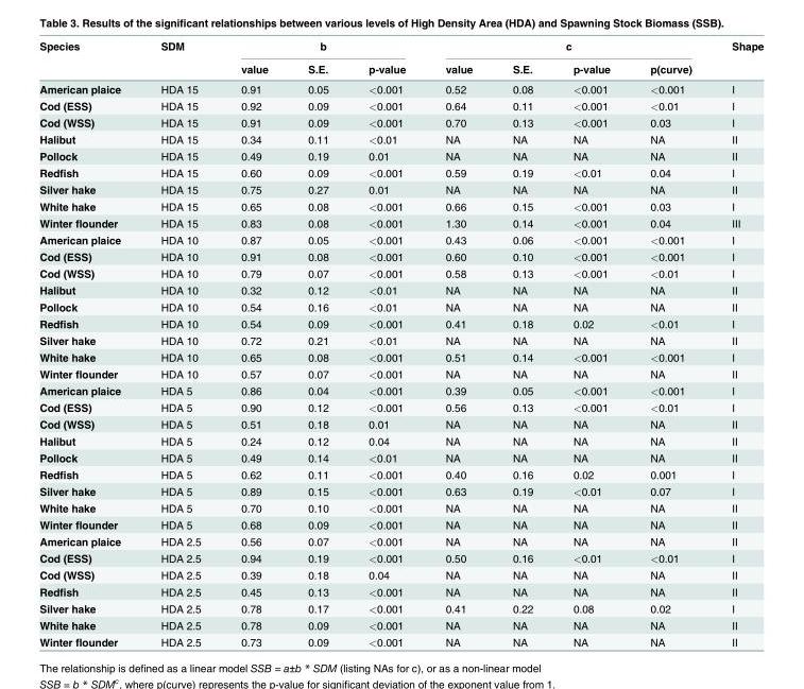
<table><thead><tr><td rowspan="2">Species</td><td rowspan="2">SDM</td><td colspan="3">b</td><td colspan="4">c</td><td rowspan="2">Shape</td></tr><tr><td>value</td><td>S.E.</td><td>p-value</td><td>value</td><td>S.E.</td><td>p-value</td><td>p(curve)</td></tr></thead><tbody><tr><td>American plaice</td><td>HDA 15</td><td>0.91</td><td>0.05</td><td>&lt;0.001</td><td>0.52</td><td>0.08</td><td>&lt;0.001</td><td>&lt;0.001</td><td>I</td></tr><tr><td>Cod (ESS)</td><td>HDA 15</td><td>0.92</td><td>0.09</td><td>&lt;0.001</td><td>0.64</td><td>0.11</td><td>&lt;0.001</td><td>&lt;0.01</td><td>I</td></tr><tr><td>Cod (WSS)</td><td>HDA 15</td><td>0.91</td><td>0.09</td><td>&lt;0.001</td><td>0.70</td><td>0.13</td><td>&lt;0.001</td><td>0.03</td><td>I</td></tr><tr><td>Halibut</td><td>HDA 15</td><td>0.34</td><td>0.11</td><td>&lt;0.01</td><td>NA</td><td>NA</td><td>NA</td><td>NA</td><td>II</td></tr><tr><td>Pollock</td><td>HDA 15</td><td>0.49</td><td>0.19</td><td>0.01</td><td>NA</td><td>NA</td><td>NA</td><td>NA</td><td>II</td></tr><tr><td>Redfish</td><td>HDA 15</td><td>0.60</td><td>0.09</td><td>&lt;0.001</td><td>0.59</td><td>0.19</td><td>&lt;0.01</td><td>0.04</td><td>I</td></tr><tr><td>Silver hake</td><td>HDA 15</td><td>0.75</td><td>0.27</td><td>0.01</td><td>NA</td><td>NA</td><td>NA</td><td>NA</td><td>II</td></tr><tr><td>White hake</td><td>HDA 15</td><td>0.65</td><td>0.08</td><td>&lt;0.001</td><td>0.66</td><td>0.15</td><td>&lt;0.001</td><td>0.03</td><td>I</td></tr><tr><td>Winter flounder</td><td>HDA 15</td><td>0.83</td><td>0.08</td><td>&lt;0.001</td><td>1.30</td><td>0.14</td><td>&lt;0.001</td><td>0.04</td><td>III</td></tr><tr><td>American plaice</td><td>HDA 10</td><td>0.87</td><td>0.05</td><td>&lt;0.001</td><td>0.43</td><td>0.06</td><td>&lt;0.001</td><td>&lt;0.001</td><td>I</td></tr><tr><td>Cod (ESS)</td><td>HDA 10</td><td>0.91</td><td>0.08</td><td>&lt;0.001</td><td>0.60</td><td>0.10</td><td>&lt;0.001</td><td>&lt;0.001</td><td>I</td></tr><tr><td>Cod (WSS)</td><td>HDA 10</td><td>0.79</td><td>0.07</td><td>&lt;0.001</td><td>0.58</td><td>0.13</td><td>&lt;0.001</td><td>&lt;0.01</td><td>I</td></tr><tr><td>Halibut</td><td>HDA 10</td><td>0.32</td><td>0.12</td><td>&lt;0.01</td><td>NA</td><td>NA</td><td>NA</td><td>NA</td><td>II</td></tr><tr><td>Pollock</td><td>HDA 10</td><td>0.54</td><td>0.16</td><td>&lt;0.01</td><td>NA</td><td>NA</td><td>NA</td><td>NA</td><td>II</td></tr><tr><td>Redfish</td><td>HDA 10</td><td>0.54</td><td>0.09</td><td>&lt;0.001</td><td>0.41</td><td>0.18</td><td>0.02</td><td>&lt;0.01</td><td>I</td></tr><tr><td>Silver hake</td><td>HDA 10</td><td>0.72</td><td>0.21</td><td>&lt;0.01</td><td>NA</td><td>NA</td><td>NA</td><td>NA</td><td>II</td></tr><tr><td>White hake</td><td>HDA 10</td><td>0.65</td><td>0.08</td><td>&lt;0.001</td><td>0.51</td><td>0.14</td><td>&lt;0.001</td><td>&lt;0.001</td><td>I</td></tr><tr><td>Winter flounder</td><td>HDA 10</td><td>0.57</td><td>0.07</td><td>&lt;0.001</td><td>NA</td><td>NA</td><td>NA</td><td>NA</td><td>II</td></tr><tr><td>American plaice</td><td>HDA 5</td><td>0.86</td><td>0.04</td><td>&lt;0.001</td><td>0.39</td><td>0.05</td><td>&lt;0.001</td><td>&lt;0.001</td><td>I</td></tr><tr><td>Cod (ESS)</td><td>HDA 5</td><td>0.90</td><td>0.12</td><td>&lt;0.001</td><td>0.56</td><td>0.13</td><td>&lt;0.001</td><td>&lt;0.01</td><td>I</td></tr><tr><td>Cod (WSS)</td><td>HDA 5</td><td>0.51</td><td>0.18</td><td>0.01</td><td>NA</td><td>NA</td><td>NA</td><td>NA</td><td>II</td></tr><tr><td>Halibut</td><td>HDA 5</td><td>0.24</td><td>0.12</td><td>0.04</td><td>NA</td><td>NA</td><td>NA</td><td>NA</td><td>II</td></tr><tr><td>Pollock</td><td>HDA 5</td><td>0.49</td><td>0.14</td><td>&lt;0.01</td><td>NA</td><td>NA</td><td>NA</td><td>NA</td><td>II</td></tr><tr><td>Redfish</td><td>HDA 5</td><td>0.62</td><td>0.11</td><td>&lt;0.001</td><td>0.40</td><td>0.16</td><td>0.02</td><td>0.001</td><td>I</td></tr><tr><td>Silver hake</td><td>HDA 5</td><td>0.89</td><td>0.15</td><td>&lt;0.001</td><td>0.63</td><td>0.19</td><td>&lt;0.01</td><td>0.07</td><td>I</td></tr><tr><td>White hake</td><td>HDA 5</td><td>0.70</td><td>0.10</td><td>&lt;0.001</td><td>NA</td><td>NA</td><td>NA</td><td>NA</td><td>II</td></tr><tr><td>Winter flounder</td><td>HDA 5</td><td>0.68</td><td>0.09</td><td>&lt;0.001</td><td>NA</td><td>NA</td><td>NA</td><td>NA</td><td>II</td></tr><tr><td>American plaice</td><td>HDA 2.5</td><td>0.56</td><td>0.07</td><td>&lt;0.001</td><td>NA</td><td>NA</td><td>NA</td><td>NA</td><td>II</td></tr><tr><td>Cod (ESS)</td><td>HDA 2.5</td><td>0.94</td><td>0.19</td><td>&lt;0.001</td><td>0.50</td><td>0.16</td><td>&lt;0.01</td><td>&lt;0.01</td><td>I</td></tr><tr><td>Cod (WSS)</td><td>HDA 2.5</td><td>0.39</td><td>0.18</td><td>0.04</td><td>NA</td><td>NA</td><td>NA</td><td>NA</td><td>II</td></tr><tr><td>Redfish</td><td>HDA 2.5</td><td>0.45</td><td>0.13</td><td>&lt;0.001</td><td>NA</td><td>NA</td><td>NA</td><td>NA</td><td>II</td></tr><tr><td>Silver hake</td><td>HDA 2.5</td><td>0.78</td><td>0.17</td><td>&lt;0.001</td><td>0.41</td><td>0.22</td><td>0.08</td><td>0.02</td><td>I</td></tr><tr><td>White hake</td><td>HDA 2.5</td><td>0.78</td><td>0.09</td><td>&lt;0.001</td><td>NA</td><td>NA</td><td>NA</td><td>NA</td><td>II</td></tr><tr><td>Winter flounder</td><td>HDA 2.5</td><td>0.73</td><td>0.09</td><td>&lt;0.001</td><td>NA</td><td>NA</td><td>NA</td><td>NA</td><td>II</td></tr></tbody></table>